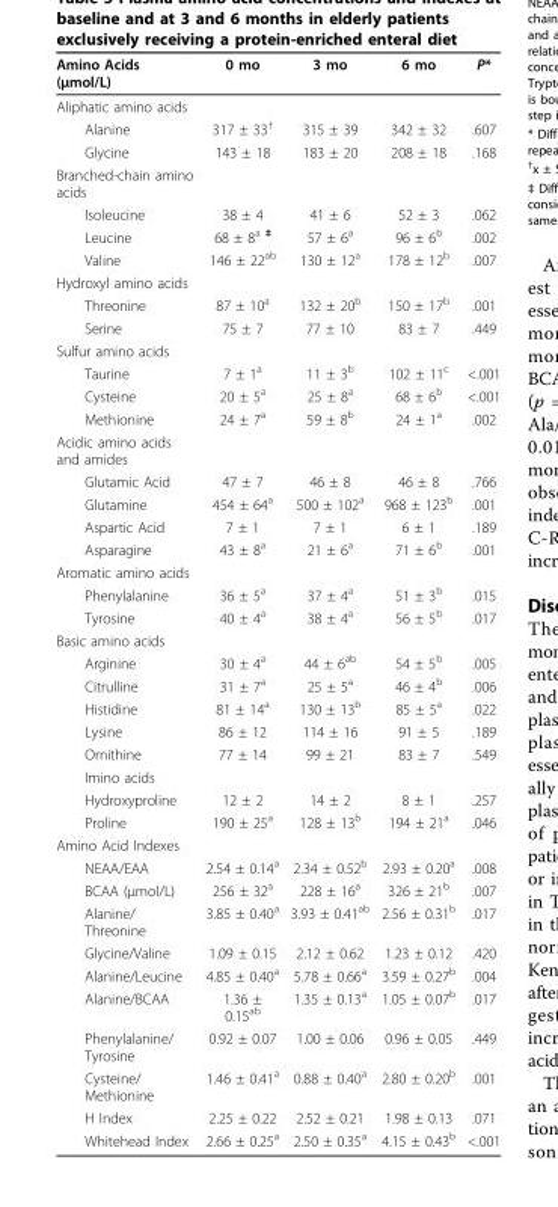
<table><thead><tr><td>Amino Acids (μmol/L)</td><td>0 mo</td><td>3 mo</td><td>6 mo</td><td>P*</td></tr></thead><tbody><tr><td colspan="5">Aliphatic amino acids</td></tr><tr><td>Alanine</td><td>317 ± 33<sup>†</sup></td><td>315 ± 39</td><td>342 ± 32</td><td>.607</td></tr><tr><td>Glycine</td><td>143 ± 18</td><td>183 ± 20</td><td>208 ± 18</td><td>.168</td></tr><tr><td colspan="5">Branched-chain amino acids</td></tr><tr><td>Isoleucine</td><td>38 ± 4</td><td>41 ± 6</td><td>52 ± 3</td><td>.062</td></tr><tr><td>Leucine</td><td>68 ± 8<sup>a ‡</sup></td><td>57 ± 6<sup>a</sup></td><td>96 ± 6<sup>b</sup></td><td>.002</td></tr><tr><td>Valine</td><td>146 ± 22<sup>ab</sup></td><td>130 ± 12<sup>a</sup></td><td>178 ± 12<sup>b</sup></td><td>.007</td></tr><tr><td colspan="5">Hydroxyl amino acids</td></tr><tr><td>Threonine</td><td>87 ± 10<sup>a</sup></td><td>132 ± 20<sup>b</sup></td><td>150 ± 17<sup>b</sup></td><td>.001</td></tr><tr><td>Serine</td><td>75 ± 7</td><td>77 ± 10</td><td>83 ± 7</td><td>.449</td></tr><tr><td colspan="5">Sulfur amino acids</td></tr><tr><td>Taurine</td><td>7 ± 1<sup>a</sup></td><td>11 ± 3<sup>b</sup></td><td>102 ± 11<sup>c</sup></td><td>&lt;.001</td></tr><tr><td>Cysteine</td><td>20 ± 5<sup>a</sup></td><td>25 ± 8<sup>a</sup></td><td>68 ± 6<sup>b</sup></td><td>&lt;.001</td></tr><tr><td>Methionine</td><td>24 ± 7<sup>a</sup></td><td>59 ± 8<sup>b</sup></td><td>24 ± 1<sup>a</sup></td><td>.002</td></tr><tr><td colspan="5">Acidic amino acids and amides</td></tr><tr><td>Glutamic Acid</td><td>47 ± 7</td><td>46 ± 8</td><td>46 ± 8</td><td>.766</td></tr><tr><td>Glutamine</td><td>454 ± 64<sup>a</sup></td><td>500 ± 102<sup>a</sup></td><td>968 ± 123<sup>b</sup></td><td>.001</td></tr><tr><td>Aspartic Acid</td><td>7 ± 1</td><td>7 ± 1</td><td>6 ± 1</td><td>.189</td></tr><tr><td>Asparagine</td><td>43 ± 8<sup>a</sup></td><td>21 ± 6<sup>a</sup></td><td>71 ± 6<sup>b</sup></td><td>.001</td></tr><tr><td colspan="5">Aromatic amino acids</td></tr><tr><td>Phenylalanine</td><td>36 ± 5<sup>a</sup></td><td>37 ± 4<sup>a</sup></td><td>51 ± 3<sup>b</sup></td><td>.015</td></tr><tr><td>Tyrosine</td><td>40 ± 4<sup>a</sup></td><td>38 ± 4<sup>a</sup></td><td>56 ± 5<sup>b</sup></td><td>.017</td></tr><tr><td colspan="5">Basic amino acids</td></tr><tr><td>Arginine</td><td>30 ± 4<sup>a</sup></td><td>44 ± 6<sup>ab</sup></td><td>54 ± 5<sup>b</sup></td><td>.005</td></tr><tr><td>Citrulline</td><td>31 ± 7<sup>a</sup></td><td>25 ± 5<sup>a</sup></td><td>46 ± 4<sup>b</sup></td><td>.006</td></tr><tr><td>Histidine</td><td>81 ± 14<sup>a</sup></td><td>130 ± 13<sup>b</sup></td><td>85 ± 5<sup>a</sup></td><td>.022</td></tr><tr><td>Lysine</td><td>86 ± 12</td><td>114 ± 16</td><td>91 ± 5</td><td>.189</td></tr><tr><td>Ornithine</td><td>77 ± 14</td><td>99 ± 21</td><td>83 ± 7</td><td>.549</td></tr><tr><td colspan="5">Imino acids</td></tr><tr><td>Hydroxyproline</td><td>12 ± 2</td><td>14 ± 2</td><td>8 ± 1</td><td>.257</td></tr><tr><td>Proline</td><td>190 ± 25<sup>a</sup></td><td>128 ± 13<sup>b</sup></td><td>194 ± 21<sup>a</sup></td><td>.046</td></tr><tr><td colspan="5">Amino Acid Indexes</td></tr><tr><td>NEAA/EAA</td><td>2.54 ± 0.14<sup>a</sup></td><td>2.34 ± 0.52<sup>b</sup></td><td>2.93 ± 0.20<sup>a</sup></td><td>.008</td></tr><tr><td>BCAA (μmol/L)</td><td>256 ± 32<sup>a</sup></td><td>228 ± 16<sup>a</sup></td><td>326 ± 21<sup>b</sup></td><td>.007</td></tr><tr><td>Alanine/ Threonine</td><td>3.85 ± 0.40<sup>a</sup></td><td>3.93 ± 0.41<sup>ab</sup></td><td>2.56 ± 0.31<sup>b</sup></td><td>.017</td></tr><tr><td>Glycine/Valine</td><td>1.09 ± 0.15</td><td>2.12 ± 0.62</td><td>1.23 ± 0.12</td><td>.420</td></tr><tr><td>Alanine/Leucine</td><td>4.85 ± 0.40<sup>a</sup></td><td>5.78 ± 0.66<sup>a</sup></td><td>3.59 ± 0.27<sup>b</sup></td><td>.004</td></tr><tr><td>Alanine/BCAA</td><td>1.36 ± 0.15<sup>ab</sup></td><td>1.35 ± 0.13<sup>a</sup></td><td>1.05 ± 0.07<sup>b</sup></td><td>.017</td></tr><tr><td>Phenylalanine/ Tyrosine</td><td>0.92 ± 0.07</td><td>1.00 ± 0.06</td><td>0.96 ± 0.05</td><td>.449</td></tr><tr><td>Cysteine/ Methionine</td><td>1.46 ± 0.41<sup>a</sup></td><td>0.88 ± 0.40<sup>a</sup></td><td>2.80 ± 0.20<sup>b</sup></td><td>.001</td></tr><tr><td>H Index</td><td>2.25 ± 0.22</td><td>2.52 ± 0.21</td><td>1.98 ± 0.13</td><td>.071</td></tr><tr><td>Whitehead Index</td><td>2.66 ± 0.25<sup>a</sup></td><td>2.50 ± 0.35<sup>a</sup></td><td>4.15 ± 0.43<sup>b</sup></td><td>&lt;.001</td></tr></tbody></table>